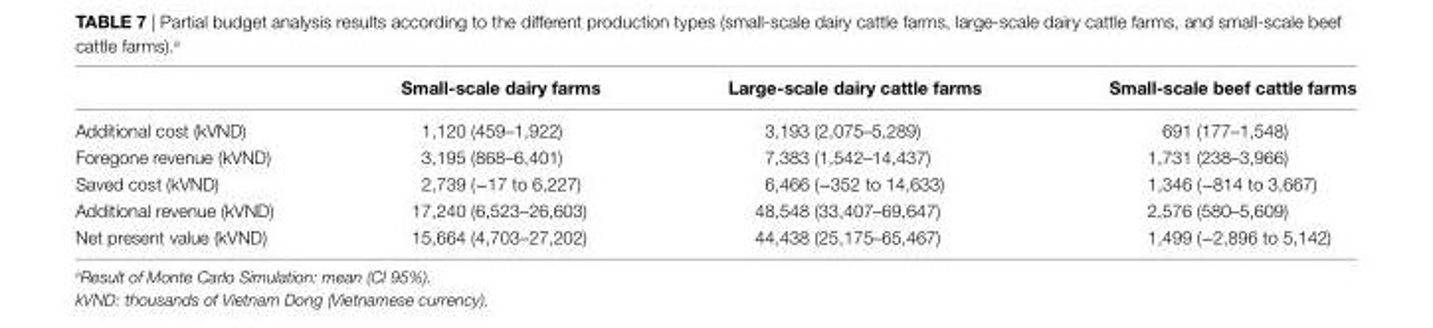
<table><thead><tr><td></td><td>small-scale dairy farms</td><td>large-scale dairy cattle farms</td><td>small-scale beef cattle farms</td></tr></thead><tbody><tr><td>Additional cost (kVND)</td><td>1,120 (459–1,922)</td><td>3,193 (2,075–5,289)</td><td>691 (177–1,548)</td></tr><tr><td>Foregone revenue (kVND)</td><td>3,195 (868–6,401)</td><td>7,383 (1,542–14,437)</td><td>1,731 (238–3,966)</td></tr><tr><td>Saved cost (kVND)</td><td>2,739 (−17 to 6,227)</td><td>6,466 (−352 to 14,633)</td><td>1,346 (−814 to 3,667)</td></tr><tr><td>Additional revenue (kVND)</td><td>17,240 (6,523–26,603)</td><td>48,548 (33,407–69,647)</td><td>2,576 (580–5,609)</td></tr><tr><td>Net present value (kVND)</td><td>15,664 (4,703–27,202)</td><td>44,438 (25,175–65,467)</td><td>1,499 (−2,896 to 5,142)</td></tr></tbody></table>